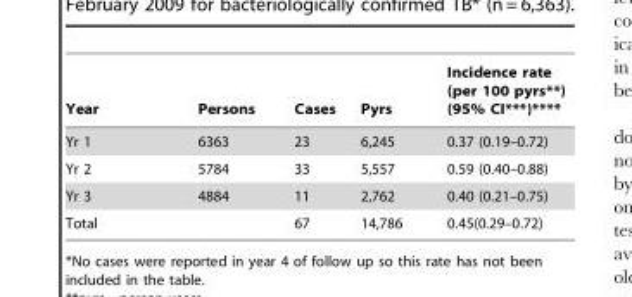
<table><thead><tr><td>Year</td><td>Persons</td><td>Cases</td><td>Pyrs</td><td>Incidence rate (per 100 pyrs**) (95% CI***)****</td></tr></thead><tbody><tr><td>Yr 1</td><td>6363</td><td>23</td><td>6,245</td><td>0.37 (0.19–0.72)</td></tr><tr><td>Yr 2</td><td>5784</td><td>33</td><td>5,557</td><td>0.59 (0.40–0.88)</td></tr><tr><td>Yr 3</td><td>4884</td><td>11</td><td>2,762</td><td>0.40 (0.21–0.75)</td></tr><tr><td>Total</td><td></td><td>67</td><td>14,786</td><td>0.45(0.29–0.72)</td></tr></tbody></table>